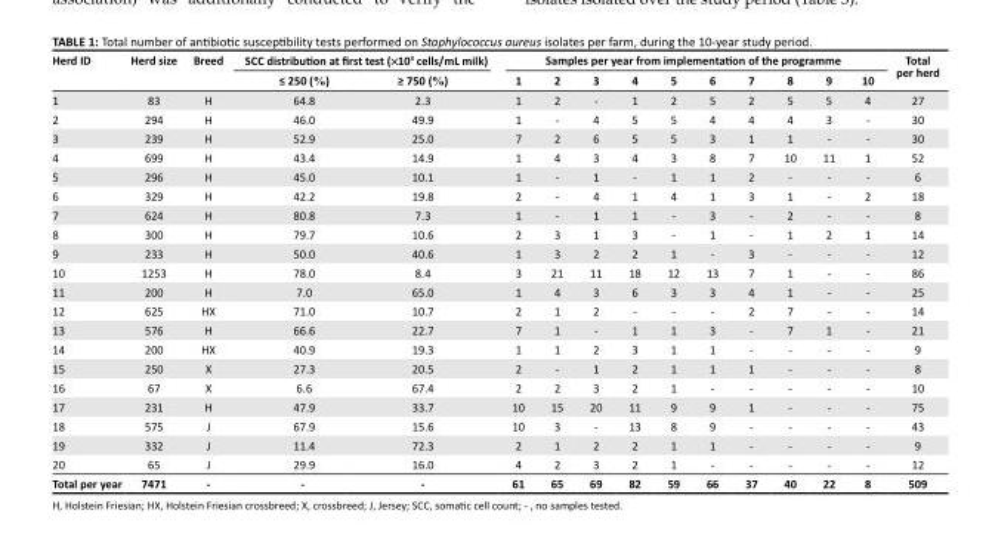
<table><thead><tr><td rowspan="2">Herd ID</td><td rowspan="2">Herd size</td><td rowspan="2">Breed</td><td colspan="2">SCC distribution at first test (ë10<sup>3</sup> cells/mL milk)</td><td colspan="10">Samples per year from implementation of the programme</td><td rowspan="2">Total per herd</td></tr><tr><td>≤ 250 (%)</td><td>≥ 750 (%)</td><td>1</td><td>2</td><td>3</td><td>4</td><td>5</td><td>6</td><td>7</td><td>8</td><td>9</td><td>10</td></tr></thead><tbody><tr><td>1</td><td>83</td><td>H</td><td>64.8</td><td>2.3</td><td>1</td><td>2</td><td>-</td><td>1</td><td>2</td><td>5</td><td>2</td><td>5</td><td>5</td><td>4</td><td>27</td></tr><tr><td>2</td><td>294</td><td>H</td><td>46.0</td><td>49.9</td><td>1</td><td>-</td><td>4</td><td>5</td><td>5</td><td>4</td><td>4</td><td>4</td><td>3</td><td>-</td><td>30</td></tr><tr><td>3</td><td>239</td><td>H</td><td>52.9</td><td>25.0</td><td>7</td><td>2</td><td>6</td><td>5</td><td>5</td><td>3</td><td>1</td><td>1</td><td>-</td><td>-</td><td>30</td></tr><tr><td>4</td><td>699</td><td>H</td><td>43.4</td><td>14.9</td><td>1</td><td>4</td><td>3</td><td>4</td><td>3</td><td>8</td><td>7</td><td>10</td><td>11</td><td>1</td><td>52</td></tr><tr><td>5</td><td>296</td><td>H</td><td>45.0</td><td>10.1</td><td>1</td><td>-</td><td>1</td><td>-</td><td>1</td><td>1</td><td>2</td><td>-</td><td>-</td><td>-</td><td>6</td></tr><tr><td>6</td><td>329</td><td>H</td><td>42.2</td><td>19.8</td><td>2</td><td>-</td><td>4</td><td>1</td><td>4</td><td>1</td><td>3</td><td>1</td><td>-</td><td>2</td><td>18</td></tr><tr><td>7</td><td>624</td><td>H</td><td>80.8</td><td>7.3</td><td>1</td><td>-</td><td>1</td><td>1</td><td>-</td><td>3</td><td>-</td><td>2</td><td>-</td><td>-</td><td>8</td></tr><tr><td>8</td><td>300</td><td>H</td><td>79.7</td><td>10.6</td><td>2</td><td>3</td><td>1</td><td>3</td><td>-</td><td>1</td><td>-</td><td>1</td><td>2</td><td>1</td><td>14</td></tr><tr><td>9</td><td>233</td><td>H</td><td>50.0</td><td>40.6</td><td>1</td><td>3</td><td>2</td><td>2</td><td>1</td><td>-</td><td>3</td><td>-</td><td>-</td><td>-</td><td>12</td></tr><tr><td>10</td><td>1253</td><td>H</td><td>78.0</td><td>8.4</td><td>3</td><td>21</td><td>11</td><td>18</td><td>12</td><td>13</td><td>7</td><td>1</td><td>-</td><td>-</td><td>86</td></tr><tr><td>11</td><td>200</td><td>H</td><td>7.0</td><td>65.0</td><td>1</td><td>4</td><td>3</td><td>6</td><td>3</td><td>3</td><td>4</td><td>1</td><td>-</td><td>-</td><td>25</td></tr><tr><td>12</td><td>625</td><td>HX</td><td>71.0</td><td>10.7</td><td>2</td><td>1</td><td>2</td><td>-</td><td>-</td><td>-</td><td>2</td><td>7</td><td>-</td><td>-</td><td>14</td></tr><tr><td>13</td><td>576</td><td>H</td><td>66.6</td><td>22.7</td><td>7</td><td>1</td><td>-</td><td>1</td><td>1</td><td>3</td><td>-</td><td>7</td><td>1</td><td>-</td><td>21</td></tr><tr><td>14</td><td>200</td><td>HX</td><td>40.9</td><td>19.3</td><td>1</td><td>1</td><td>2</td><td>3</td><td>1</td><td>1</td><td>-</td><td>-</td><td>-</td><td>-</td><td>9</td></tr><tr><td>15</td><td>250</td><td>X</td><td>27.3</td><td>20.5</td><td>2</td><td>-</td><td>1</td><td>2</td><td>1</td><td>1</td><td>1</td><td>-</td><td>-</td><td>-</td><td>8</td></tr><tr><td>16</td><td>67</td><td>X</td><td>6.6</td><td>67.4</td><td>2</td><td>2</td><td>3</td><td>2</td><td>1</td><td>-</td><td>-</td><td>-</td><td>-</td><td>-</td><td>10</td></tr><tr><td>17</td><td>231</td><td>H</td><td>47.9</td><td>33.7</td><td>10</td><td>15</td><td>20</td><td>11</td><td>9</td><td>9</td><td>1</td><td>-</td><td>-</td><td>-</td><td>75</td></tr><tr><td>18</td><td>575</td><td>J</td><td>67.9</td><td>15.6</td><td>10</td><td>3</td><td>-</td><td>13</td><td>8</td><td>9</td><td>-</td><td>-</td><td>-</td><td>-</td><td>43</td></tr><tr><td>19</td><td>332</td><td>J</td><td>11.4</td><td>72.3</td><td>2</td><td>1</td><td>2</td><td>2</td><td>1</td><td>1</td><td>-</td><td>-</td><td>-</td><td>-</td><td>9</td></tr><tr><td>20</td><td>65</td><td>J</td><td>29.9</td><td>16.0</td><td>4</td><td>2</td><td>3</td><td>2</td><td>1</td><td>-</td><td>-</td><td>-</td><td>-</td><td>-</td><td>12</td></tr><tr><td>Total per year</td><td>7471</td><td>-</td><td>-</td><td>-</td><td>61</td><td>65</td><td>69</td><td>82</td><td>59</td><td>66</td><td>37</td><td>40</td><td>22</td><td>8</td><td>509</td></tr></tbody></table>